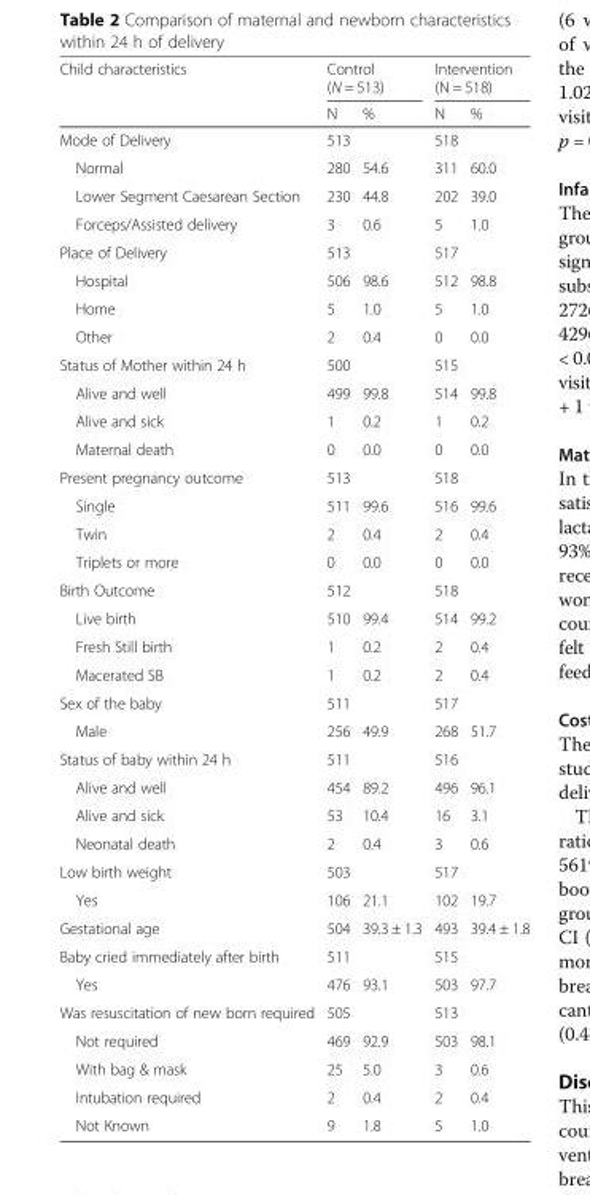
<table><thead><tr><td rowspan="2">Child characteristics</td><td colspan="2">Control (N = 513)</td><td colspan="2">Intervention (N = 518)</td></tr><tr><td>N</td><td>%</td><td>N</td><td>%</td></tr></thead><tbody><tr><td>Mode of Delivery</td><td>513</td><td></td><td>518</td><td></td></tr><tr><td>Normal</td><td>280</td><td>54.6</td><td>311</td><td>60.0</td></tr><tr><td>Lower Segment Caesarean Section</td><td>230</td><td>44.8</td><td>202</td><td>39.0</td></tr><tr><td>Forceps/Assisted delivery</td><td>3</td><td>0.6</td><td>5</td><td>1.0</td></tr><tr><td>Place of Delivery</td><td>513</td><td></td><td>517</td><td></td></tr><tr><td>Hospital</td><td>506</td><td>98.6</td><td>512</td><td>98.8</td></tr><tr><td>Home</td><td>5</td><td>1.0</td><td>5</td><td>1.0</td></tr><tr><td>Other</td><td>2</td><td>0.4</td><td>0</td><td>0.0</td></tr><tr><td>Status of Mother within 24 h</td><td>500</td><td></td><td>515</td><td></td></tr><tr><td>Alive and well</td><td>499</td><td>99.8</td><td>514</td><td>99.8</td></tr><tr><td>Alive and sick</td><td>1</td><td>0.2</td><td>1</td><td>0.2</td></tr><tr><td>Maternal death</td><td>0</td><td>0.0</td><td>0</td><td>0.0</td></tr><tr><td>Present pregnancy outcome</td><td>513</td><td></td><td>518</td><td></td></tr><tr><td>Single</td><td>511</td><td>99.6</td><td>516</td><td>99.6</td></tr><tr><td>Twin</td><td>2</td><td>0.4</td><td>2</td><td>0.4</td></tr><tr><td>Triplets or more</td><td>0</td><td>0.0</td><td>0</td><td>0.0</td></tr><tr><td>Birth Outcome</td><td>512</td><td></td><td>518</td><td></td></tr><tr><td>Live birth</td><td>510</td><td>99.4</td><td>514</td><td>99.2</td></tr><tr><td>Fresh Still birth</td><td>1</td><td>0.2</td><td>2</td><td>0.4</td></tr><tr><td>Macerated SB</td><td>1</td><td>0.2</td><td>2</td><td>0.4</td></tr><tr><td>Sex of the baby</td><td>511</td><td></td><td>517</td><td></td></tr><tr><td>Male</td><td>256</td><td>49.9</td><td>268</td><td>51.7</td></tr><tr><td>Status of baby within 24 h</td><td>511</td><td></td><td>516</td><td></td></tr><tr><td>Alive and well</td><td>454</td><td>89.2</td><td>496</td><td>96.1</td></tr><tr><td>Alive and sick</td><td>53</td><td>10.4</td><td>16</td><td>3.1</td></tr><tr><td>Neonatal death</td><td>2</td><td>0.4</td><td>3</td><td>0.6</td></tr><tr><td>Low birth weight</td><td>503</td><td></td><td>517</td><td></td></tr><tr><td>Yes</td><td>106</td><td>21.1</td><td>102</td><td>19.7</td></tr><tr><td>Gestational age</td><td>504</td><td>39.3 ± 1.3</td><td>493</td><td>39.4 ± 1.8</td></tr><tr><td>Baby cried immediately after birth</td><td>511</td><td></td><td>515</td><td></td></tr><tr><td>Yes</td><td>476</td><td>93.1</td><td>503</td><td>97.7</td></tr><tr><td>Was resuscitation of new born required</td><td>505</td><td></td><td>513</td><td></td></tr><tr><td>Not required</td><td>469</td><td>92.9</td><td>503</td><td>98.1</td></tr><tr><td>With bag &amp; mask</td><td>25</td><td>5.0</td><td>3</td><td>0.6</td></tr><tr><td>Intubation required</td><td>2</td><td>0.4</td><td>2</td><td>0.4</td></tr><tr><td>Not Known</td><td>9</td><td>1.8</td><td>5</td><td>1.0</td></tr></tbody></table>